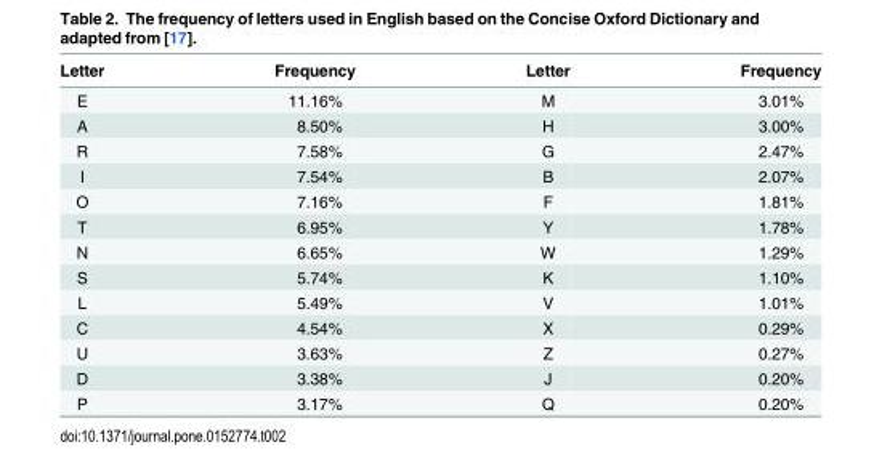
<table><thead><tr><td>Letter</td><td>Frequency</td><td>Letter</td><td>Frequency</td></tr></thead><tbody><tr><td>E</td><td>11.16%</td><td>M</td><td>3.01%</td></tr><tr><td>A</td><td>8.50%</td><td>H</td><td>3.00%</td></tr><tr><td>R</td><td>7.58%</td><td>G</td><td>2.47%</td></tr><tr><td>I</td><td>7.54%</td><td>B</td><td>2.07%</td></tr><tr><td>O</td><td>7.16%</td><td>F</td><td>1.81%</td></tr><tr><td>T</td><td>6.95%</td><td>Y</td><td>1.78%</td></tr><tr><td>N</td><td>6.65%</td><td>W</td><td>1.29%</td></tr><tr><td>S</td><td>5.74%</td><td>K</td><td>1.10%</td></tr><tr><td>L</td><td>5.49%</td><td>V</td><td>1.01%</td></tr><tr><td>C</td><td>4.54%</td><td>X</td><td>0.29%</td></tr><tr><td>U</td><td>3.63%</td><td>Z</td><td>0.27%</td></tr><tr><td>D</td><td>3.38%</td><td>J</td><td>0.20%</td></tr><tr><td>P</td><td>3.17%</td><td>Q</td><td>0.20%</td></tr></tbody></table>